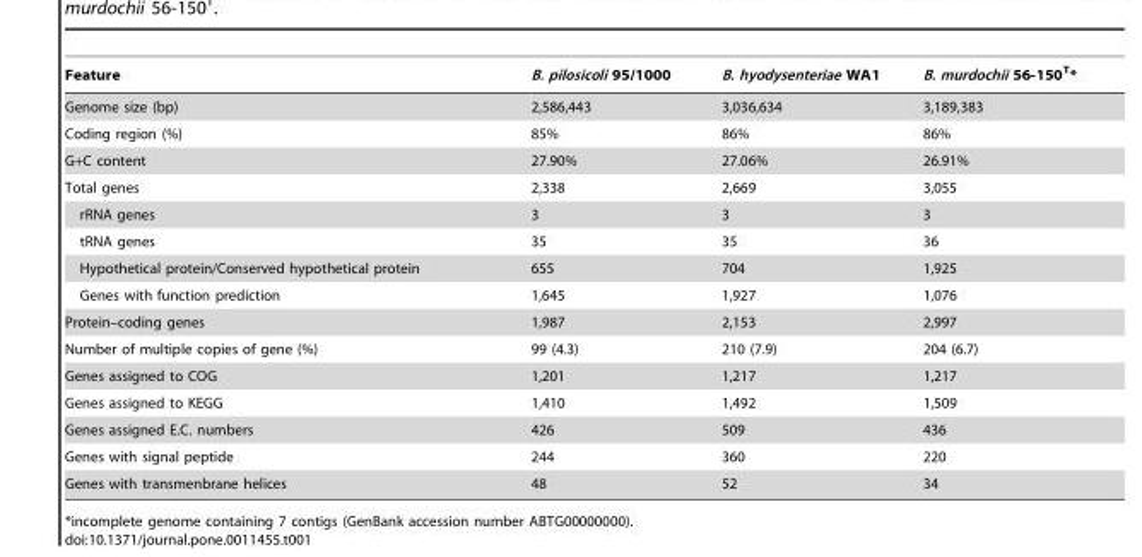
<table><thead><tr><td>Feature</td><td>B. pilosicoli 95/1000</td><td>B. hyodysenteriae WA1</td><td>B. murdochii 56-150<sup>T</sup>*</td></tr></thead><tbody><tr><td>Genome size (bp)</td><td>2,586,443</td><td>3,036,634</td><td>3,189,383</td></tr><tr><td>Coding region (%)</td><td>85%</td><td>86%</td><td>86%</td></tr><tr><td>G+C content</td><td>27.90%</td><td>27.06%</td><td>26.91%</td></tr><tr><td>Total genes</td><td>2,338</td><td>2,669</td><td>3,055</td></tr><tr><td>rRNA genes</td><td>3</td><td>3</td><td>3</td></tr><tr><td>tRNA genes</td><td>35</td><td>35</td><td>36</td></tr><tr><td>Hypothetical protein/Conserved hypothetical protein</td><td>655</td><td>704</td><td>1,925</td></tr><tr><td>Genes with function prediction</td><td>1,645</td><td>1,927</td><td>1,076</td></tr><tr><td>Protein–coding genes</td><td>1,987</td><td>2,153</td><td>2,997</td></tr><tr><td>Number of multiple copies of gene (%)</td><td>99 (4.3)</td><td>210 (7.9)</td><td>204 (6.7)</td></tr><tr><td>Genes assigned to COG</td><td>1,201</td><td>1,217</td><td>1,217</td></tr><tr><td>Genes assigned to KEGG</td><td>1,410</td><td>1,492</td><td>1,509</td></tr><tr><td>Genes assigned E.C. numbers</td><td>426</td><td>509</td><td>436</td></tr><tr><td>Genes with signal peptide</td><td>244</td><td>360</td><td>220</td></tr><tr><td>Genes with transmenbrane helices</td><td>48</td><td>52</td><td>34</td></tr></tbody></table>